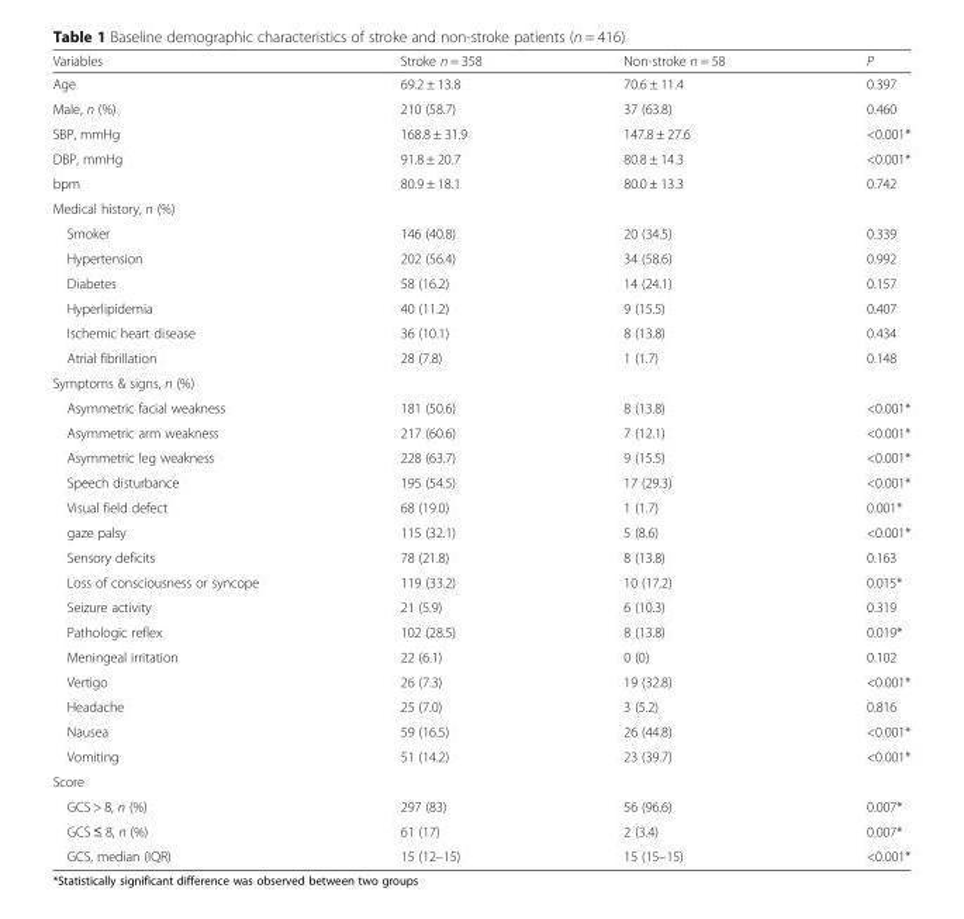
<table><thead><tr><td>Variables</td><td>Stroke n = 358</td><td>Non-stroke n = 58</td><td>P</td></tr></thead><tbody><tr><td>Age</td><td>69.2 ± 13.8</td><td>70.6 ± 11.4</td><td>0.397</td></tr><tr><td>Male, n (%)</td><td>210 (58.7)</td><td>37 (63.8)</td><td>0.460</td></tr><tr><td>SBP, mmHg</td><td>168.8 ± 31.9</td><td>147.8 ± 27.6</td><td>&lt;0.001*</td></tr><tr><td>DBP, mmHg</td><td>91.8 ± 20.7</td><td>80.8 ± 14.3</td><td>&lt;0.001*</td></tr><tr><td>bpm</td><td>80.9 ± 18.1</td><td>80.0 ± 13.3</td><td>0.742</td></tr><tr><td colspan="4">Medical history, n (%)</td></tr><tr><td>Smoker</td><td>146 (40.8)</td><td>20 (34.5)</td><td>0.339</td></tr><tr><td>Hypertension</td><td>202 (56.4)</td><td>34 (58.6)</td><td>0.992</td></tr><tr><td>Diabetes</td><td>58 (16.2)</td><td>14 (24.1)</td><td>0.157</td></tr><tr><td>Hyperlipidemia</td><td>40 (11.2)</td><td>9 (15.5)</td><td>0.407</td></tr><tr><td>Ischemic heart disease</td><td>36 (10.1)</td><td>8 (13.8)</td><td>0.434</td></tr><tr><td>Atrial fibrillation</td><td>28 (7.8)</td><td>1 (1.7)</td><td>0.148</td></tr><tr><td colspan="4">Symptoms &amp; signs, n (%)</td></tr><tr><td>Asymmetric facial weakness</td><td>181 (50.6)</td><td>8 (13.8)</td><td>&lt;0.001*</td></tr><tr><td>Asymmetric arm weakness</td><td>217 (60.6)</td><td>7 (12.1)</td><td>&lt;0.001*</td></tr><tr><td>Asymmetric leg weakness</td><td>228 (63.7)</td><td>9 (15.5)</td><td>&lt;0.001*</td></tr><tr><td>Speech disturbance</td><td>195 (54.5)</td><td>17 (29.3)</td><td>&lt;0.001*</td></tr><tr><td>Visual field defect</td><td>68 (19.0)</td><td>1 (1.7)</td><td>0.001*</td></tr><tr><td>gaze palsy</td><td>115 (32.1)</td><td>5 (8.6)</td><td>&lt;0.001*</td></tr><tr><td>Sensory deficits</td><td>78 (21.8)</td><td>8 (13.8)</td><td>0.163</td></tr><tr><td>Loss of consciousness or syncope</td><td>119 (33.2)</td><td>10 (17.2)</td><td>0.015*</td></tr><tr><td>Seizure activity</td><td>21 (5.9)</td><td>6 (10.3)</td><td>0.319</td></tr><tr><td>Pathologic reflex</td><td>102 (28.5)</td><td>8 (13.8)</td><td>0.019*</td></tr><tr><td>Meningeal irritation</td><td>22 (6.1)</td><td>0 (0)</td><td>0.102</td></tr><tr><td>Vertigo</td><td>26 (7.3)</td><td>19 (32.8)</td><td>&lt;0.001*</td></tr><tr><td>Headache</td><td>25 (7.0)</td><td>3 (5.2)</td><td>0.816</td></tr><tr><td>Nausea</td><td>59 (16.5)</td><td>26 (44.8)</td><td>&lt;0.001*</td></tr><tr><td>Vomiting</td><td>51 (14.2)</td><td>23 (39.7)</td><td>&lt;0.001*</td></tr><tr><td colspan="4">Score</td></tr><tr><td>GCS &gt; 8, n (%)</td><td>297 (83)</td><td>56 (96.6)</td><td>0.007*</td></tr><tr><td>GCS ≤ 8, n (%)</td><td>61 (17)</td><td>2 (3.4)</td><td>0.007*</td></tr><tr><td>GCS, median (IQR)</td><td>15 (12–15)</td><td>15 (15–15)</td><td>&lt;0.001*</td></tr></tbody></table>